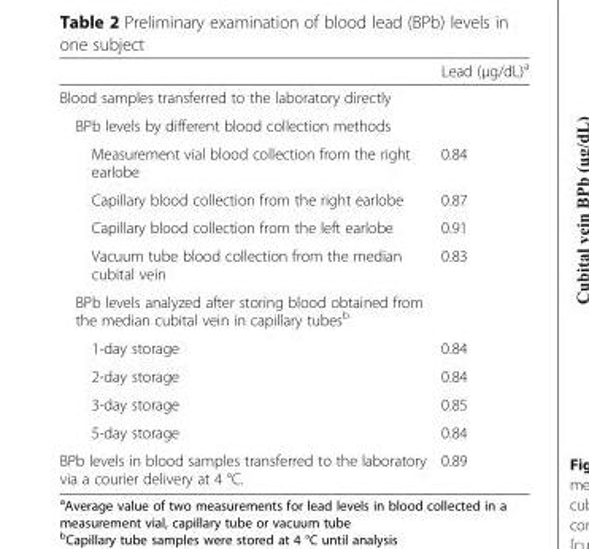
<table><thead><tr><td></td><td>Lead (μg/dL)<sup>a</sup></td></tr></thead><tbody><tr><td colspan="2">Blood samples transferred to the laboratory directly</td></tr><tr><td colspan="2">BPb levels by different blood collection methods</td></tr><tr><td>Measurement vial blood collection from the right earlobe</td><td>0.84</td></tr><tr><td>Capillary blood collection from the right earlobe</td><td>0.87</td></tr><tr><td>Capillary blood collection from the left earlobe</td><td>0.91</td></tr><tr><td>Vacuum tube blood collection from the median cubital vein</td><td>0.83</td></tr><tr><td colspan="2">BPb levels analyzed after storing blood obtained from the median cubital vein in capillary tubes<sup>b</sup></td></tr><tr><td>1-day storage</td><td>0.84</td></tr><tr><td>2-day storage</td><td>0.84</td></tr><tr><td>3-day storage</td><td>0.85</td></tr><tr><td>5-day storage</td><td>0.84</td></tr><tr><td>BPb levels in blood samples transferred to the laboratory via a courier delivery at 4 °C.</td><td>0.89</td></tr></tbody></table>